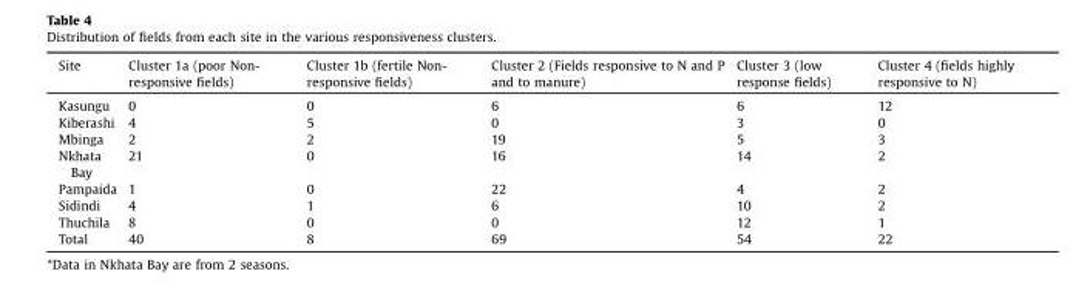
<table><thead><tr><td>Site</td><td>Cluster 1a (poor Non- responsive fields)</td><td>Cluster 1b (fertile Non- responsive fields)</td><td>Cluster 2 (Fields responsive to N and P and to manure)</td><td>Cluster 3 (low response fields)</td><td>Cluster 4 (fields highly responsive to N)</td></tr></thead><tbody><tr><td>Kasungu</td><td>0</td><td>0</td><td>6</td><td>6</td><td>12</td></tr><tr><td>Kiberashi</td><td>4</td><td>5</td><td>0</td><td>3</td><td>0</td></tr><tr><td>Mbinga</td><td>2</td><td>2</td><td>19</td><td>5</td><td>3</td></tr><tr><td>Nkhata Bay</td><td>21</td><td>0</td><td>16</td><td>14</td><td>2</td></tr><tr><td>Pampaida</td><td>1</td><td>0</td><td>22</td><td>4</td><td>2</td></tr><tr><td>Sidindi</td><td>4</td><td>1</td><td>6</td><td>10</td><td>2</td></tr><tr><td>Thuchila</td><td>8</td><td>0</td><td>0</td><td>12</td><td>1</td></tr><tr><td>Total</td><td>40</td><td>8</td><td>69</td><td>54</td><td>22</td></tr></tbody></table>